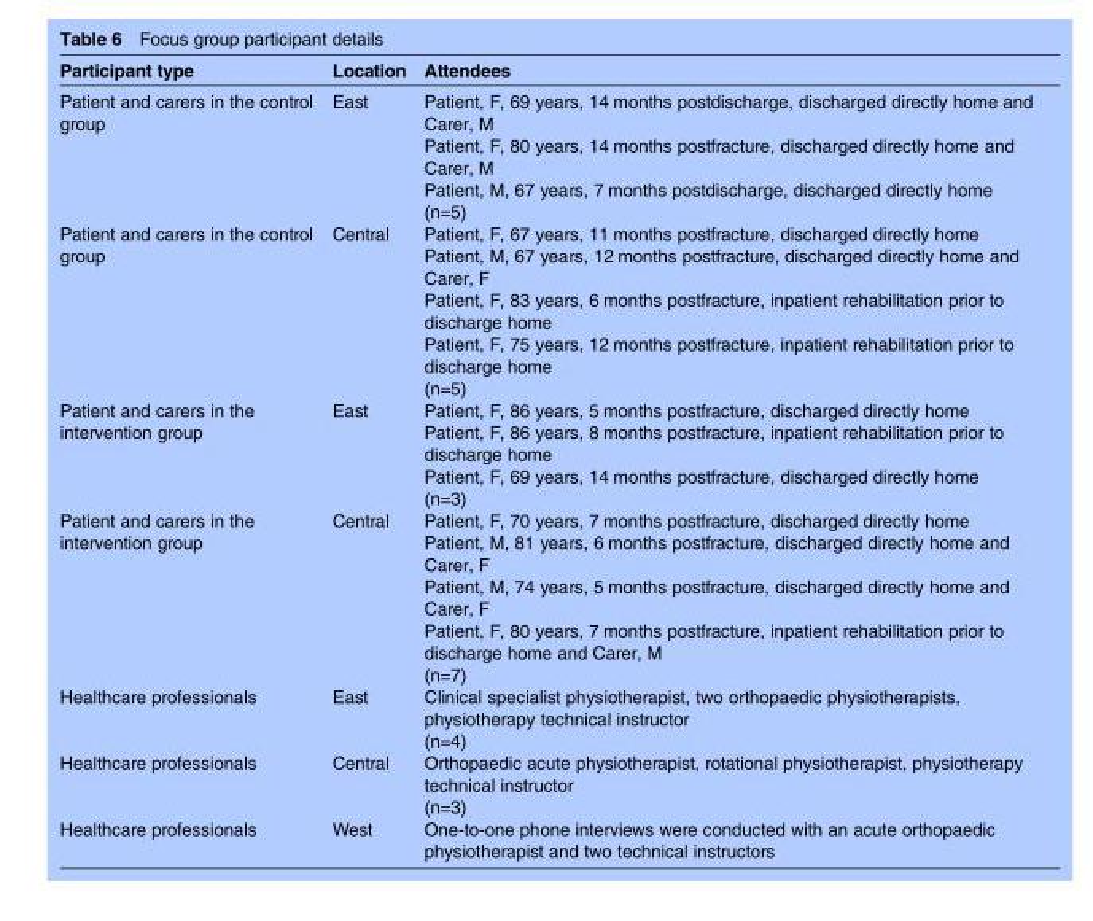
<table><thead><tr><td>Participant type</td><td>Location</td><td>Attendees</td></tr></thead><tbody><tr><td>Patient and carers in the control group</td><td>East</td><td>Patient, F, 69 years, 14 months postdischarge, discharged directly home and Carer, M Patient, F, 80 years, 14 months postfracture, discharged directly home and Carer, M Patient, M, 67 years, 7 months postdischarge, discharged directly home (n=5)</td></tr><tr><td>Patient and carers in the control group</td><td>Central</td><td>Patient, F, 67 years, 11 months postfracture, discharged directly home Patient, M, 67 years, 12 months postfracture, discharged directly home and Carer, F Patient, F, 83 years, 6 months postfracture, inpatient rehabilitation prior to discharge home Patient, F, 75 years, 12 months postfracture, inpatient rehabilitation prior to discharge home (n=5)</td></tr><tr><td>Patient and carers in the intervention group</td><td>East</td><td>Patient, F, 86 years, 5 months postfracture, discharged directly home Patient, F, 86 years, 8 months postfracture, inpatient rehabilitation prior to discharge home Patient, F, 69 years, 14 months postfracture, discharged directly home (n=3)</td></tr><tr><td>Patient and carers in the intervention group</td><td>Central</td><td>Patient, F, 70 years, 7 months postfracture, discharged directly home Patient, M, 81 years, 6 months postfracture, discharged directly home and Carer, F Patient, M, 74 years, 5 months postfracture, discharged directly home and Carer, F Patient, F, 80 years, 7 months postfracture, inpatient rehabilitation prior to discharge home and Carer, M (n=7)</td></tr><tr><td>Healthcare professionals</td><td>East</td><td>Clinical specialist physiotherapist, two orthopaedic physiotherapists, physiotherapy technical instructor (n=4)</td></tr><tr><td>Healthcare professionals</td><td>Central</td><td>Orthopaedic acute physiotherapist, rotational physiotherapist, physiotherapy technical instructor (n=3)</td></tr><tr><td>Healthcare professionals</td><td>West</td><td>One-to-one phone interviews were conducted with an acute orthopaedic physiotherapist and two technical instructors</td></tr></tbody></table>